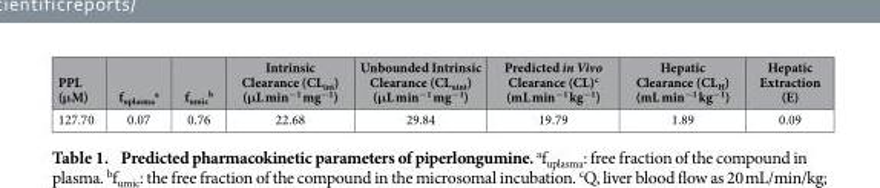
<table><thead><tr><td>PPL (μM)</td><td>f<sub>uplasma</sub> <sup>a</sup></td><td>f<sub>umic</sub> <sup>b</sup></td><td>Intrinsic Clearance (CL<sub>int</sub>) (μL min<sup>−1</sup> mg<sup>−1</sup>)</td><td>Unbounded Intrinsic Clearance (CL<sub>uint</sub>) (μL min<sup>−1</sup> mg<sup>−1</sup>)</td><td>Predicted in Vivo Clearance (CL)<sup>c</sup> (mL min<sup>−1</sup> kg<sup>−1</sup>)</td><td>Hepatic Clearance (CL<sub>H</sub>) (mL min<sup>−1</sup> kg<sup>−1</sup>)</td><td>Hepatic Extraction (E)</td></tr></thead><tbody><tr><td>127.70</td><td>0.07</td><td>0.76</td><td>22.68</td><td>29.84</td><td>19.79</td><td>1.89</td><td>0.09</td></tr></tbody></table>